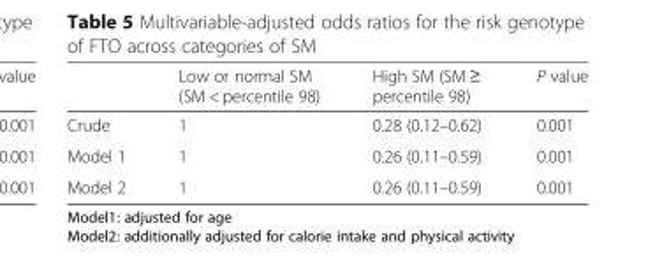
<table><thead><tr><td></td><td>Low or normal SM (SM &lt; percentile 98)</td><td>High SM (SM ≥ percentile 98)</td><td>P value</td></tr></thead><tbody><tr><td>Crude</td><td>1</td><td>0.28 (0.12–0.62)</td><td>0.001</td></tr><tr><td>Model 1</td><td>1</td><td>0.26 (0.11–0.59)</td><td>0.001</td></tr><tr><td>Model 2</td><td>1</td><td>0.26 (0.11–0.59)</td><td>0.001</td></tr></tbody></table>